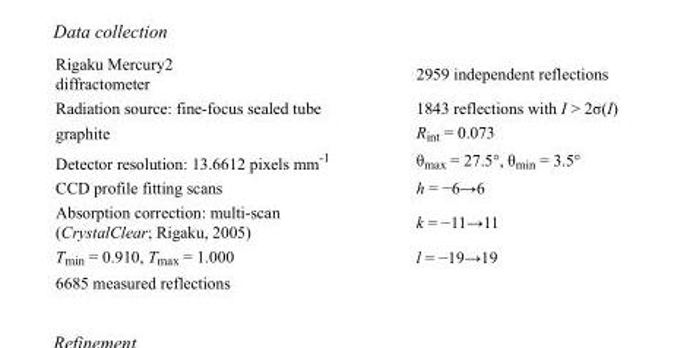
<table><tbody><tr><td>Rigaku Mercury2 diffractometer</td><td>2959 independent reflections</td></tr><tr><td>Radiation source: fine-focus sealed tube</td><td>1843 reflections with I &gt; 2σ(I)</td></tr><tr><td>graphite</td><td>R<sub>int</sub> = 0.073</td></tr><tr><td>Detector resolution: 13.6612 pixels mm<sup>-1</sup></td><td>θ<sub>max</sub> = 27.5°, θ<sub>min</sub> = 3.5°</td></tr><tr><td>CCD profile fitting scans</td><td>h = −6→6</td></tr><tr><td>Absorption correction: multi-scan (CrystalClear; Rigaku, 2005)</td><td>k = −11→11</td></tr><tr><td>T<sub>min</sub> = 0.910, T<sub>max</sub> = 1.000</td><td>l = −19→19</td></tr><tr><td>6685 measured reflections</td><td></td></tr></tbody></table>